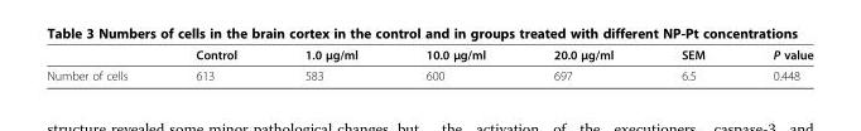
<table><thead><tr><td></td><td>Control</td><td>1.0 μg/ml</td><td>10.0 μg/ml</td><td>20.0 μg/ml</td><td>SEM</td><td>P value</td></tr></thead><tbody><tr><td>Number of cells</td><td>613</td><td>583</td><td>600</td><td>697</td><td>6.5</td><td>0.448</td></tr></tbody></table>